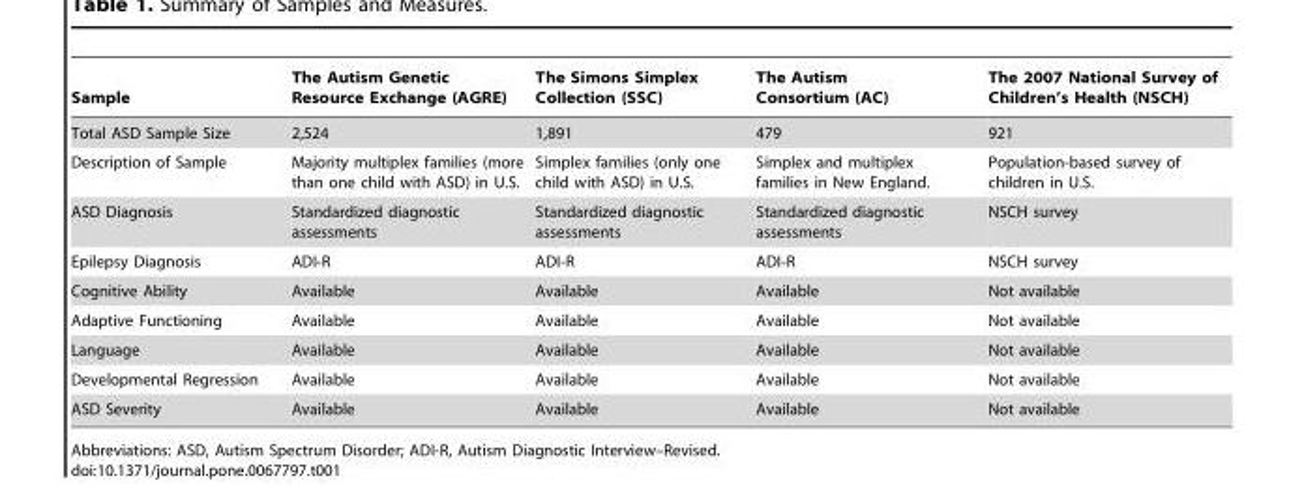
<table><thead><tr><td>Sample</td><td>The Autism Genetic Resource Exchange (AGRE)</td><td>The Simons Simplex Collection (SSC)</td><td>The Autism Consortium (AC)</td><td>The 2007 National Survey of Children’s Health (NSCH)</td></tr></thead><tbody><tr><td>Total ASD Sample Size</td><td>2,524</td><td>1,891</td><td>479</td><td>921</td></tr><tr><td>Description of Sample</td><td>Majority multiplex families (more than one child with ASD) in U.S.</td><td>Simplex families (only one child with ASD) in U.S.</td><td>Simplex and multiplex families in New England.</td><td>Population-based survey of children in U.S.</td></tr><tr><td>ASD Diagnosis</td><td>Standardized diagnostic assessments</td><td>Standardized diagnostic assessments</td><td>Standardized diagnostic assessments</td><td>NSCH survey</td></tr><tr><td>Epilepsy Diagnosis</td><td>ADI-R</td><td>ADI-R</td><td>ADI-R</td><td>NSCH survey</td></tr><tr><td>Cognitive Ability</td><td>Available</td><td>Available</td><td>Available</td><td>Not available</td></tr><tr><td>Adaptive Functioning</td><td>Available</td><td>Available</td><td>Available</td><td>Not available</td></tr><tr><td>Language</td><td>Available</td><td>Available</td><td>Available</td><td>Not available</td></tr><tr><td>Developmental Regression</td><td>Available</td><td>Available</td><td>Available</td><td>Not available</td></tr><tr><td>ASD Severity</td><td>Available</td><td>Available</td><td>Available</td><td>Not available</td></tr></tbody></table>